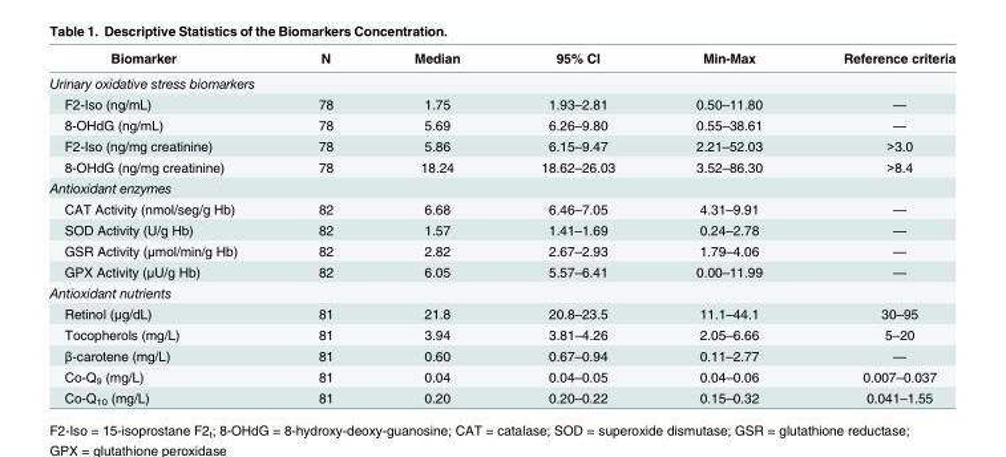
<table><thead><tr><td>Biomarker</td><td>N</td><td>Median</td><td>95% CI</td><td>Min-Max</td><td>Reference criteria</td></tr></thead><tbody><tr><td colspan="6">Urinary oxidative stress biomarkers</td></tr><tr><td>F2-Iso (ng/mL)</td><td>78</td><td>1.75</td><td>1.93–2.81</td><td>0.50–11.80</td><td>—</td></tr><tr><td>8-OHdG (ng/mL)</td><td>78</td><td>5.69</td><td>6.26–9.80</td><td>0.55–38.61</td><td>—</td></tr><tr><td>F2-Iso (ng/mg creatinine)</td><td>78</td><td>5.86</td><td>6.15–9.47</td><td>2.21–52.03</td><td>&gt;3.0</td></tr><tr><td>8-OHdG (ng/mg creatinine)</td><td>78</td><td>18.24</td><td>18.62–26.03</td><td>3.52–86.30</td><td>&gt;8.4</td></tr><tr><td colspan="6">Antioxidant enzymes</td></tr><tr><td>CAT Activity (nmol/seg/g Hb)</td><td>82</td><td>6.68</td><td>6.46–7.05</td><td>4.31–9.91</td><td>—</td></tr><tr><td>SOD Activity (U/g Hb)</td><td>82</td><td>1.57</td><td>1.41–1.69</td><td>0.24–2.78</td><td>—</td></tr><tr><td>GSR Activity (μmol/min/g Hb)</td><td>82</td><td>2.82</td><td>2.67–2.93</td><td>1.79–4.06</td><td>—</td></tr><tr><td>GPX Activity (μU/g Hb)</td><td>82</td><td>6.05</td><td>5.57–6.41</td><td>0.00–11.99</td><td>—</td></tr><tr><td colspan="6">Antioxidant nutrients</td></tr><tr><td>Retinol (μg/dL)</td><td>81</td><td>21.8</td><td>20.8–23.5</td><td>11.1–44.1</td><td>30–95</td></tr><tr><td>Tocopherols (mg/L)</td><td>81</td><td>3.94</td><td>3.81–4.26</td><td>2.05–6.66</td><td>5–20</td></tr><tr><td>β-carotene (mg/L)</td><td>81</td><td>0.60</td><td>0.67–0.94</td><td>0.11–2.77</td><td>—</td></tr><tr><td>Co-Q<sub>9</sub> (mg/L)</td><td>81</td><td>0.04</td><td>0.04–0.05</td><td>0.04–0.06</td><td>0.007–0.037</td></tr><tr><td>Co-Q<sub>10</sub> (mg/L)</td><td>81</td><td>0.20</td><td>0.20–0.22</td><td>0.15–0.32</td><td>0.041–1.55</td></tr></tbody></table>